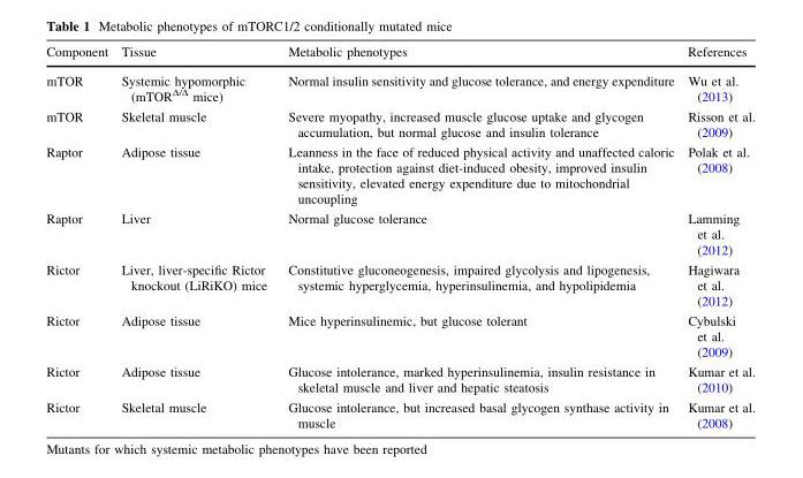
<table><thead><tr><td>Component</td><td>Tissue</td><td>Metabolic phenotypes</td><td>References</td></tr></thead><tbody><tr><td>mTOR</td><td>Systemic hypomorphic (mTOR<sup>Δ/Δ</sup> mice)</td><td>Normal insulin sensitivity and glucose tolerance, and energy expenditure</td><td>Wu et al. (2013)</td></tr><tr><td>mTOR</td><td>Skeletal muscle</td><td>Severe myopathy, increased muscle glucose uptake and glycogen accumulation, but normal glucose and insulin tolerance</td><td>Risson et al. (2009)</td></tr><tr><td>Raptor</td><td>Adipose tissue</td><td>Leanness in the face of reduced physical activity and unaffected caloric intake, protection against diet-induced obesity, improved insulin sensitivity, elevated energy expenditure due to mitochondrial uncoupling</td><td>Polak et al. (2008)</td></tr><tr><td>Raptor</td><td>Liver</td><td>Normal glucose tolerance</td><td>Lamming et al. (2012)</td></tr><tr><td>Rictor</td><td>Liver, liver-specific Rictor knockout (LiRiKO) mice</td><td>Constitutive gluconeogenesis, impaired glycolysis and lipogenesis, systemic hyperglycemia, hyperinsulinemia, and hypolipidemia</td><td>Hagiwara et al. (2012)</td></tr><tr><td>Rictor</td><td>Adipose tissue</td><td>Mice hyperinsulinemic, but glucose tolerant</td><td>Cybulski et al. (2009)</td></tr><tr><td>Rictor</td><td>Adipose tissue</td><td>Glucose intolerance, marked hyperinsulinemia, insulin resistance in skeletal muscle and liver and hepatic steatosis</td><td>Kumar et al. (2010)</td></tr><tr><td>Rictor</td><td>Skeletal muscle</td><td>Glucose intolerance, but increased basal glycogen synthase activity in muscle</td><td>Kumar et al. (2008)</td></tr></tbody></table>